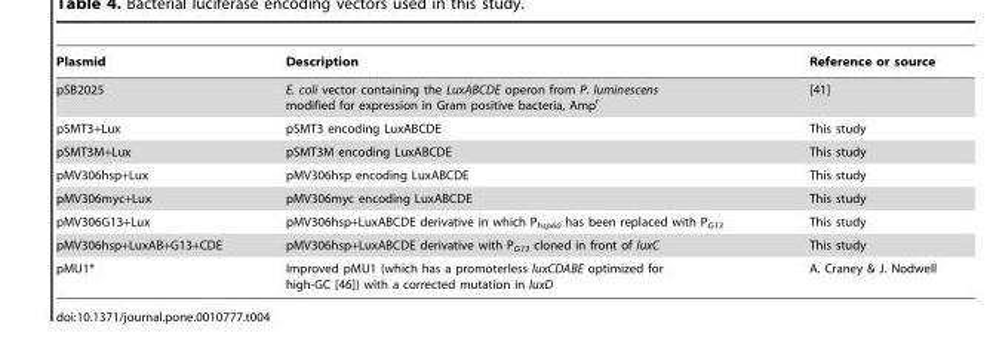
<table><thead><tr><td>Plasmid</td><td>Description</td><td>Reference or source</td></tr></thead><tbody><tr><td>pSB2025</td><td>E. coli vector containing the LuxABCDE operon from P. luminescens modified for expression in Gram positive bacteria, Amp<sup>r</sup></td><td>[41]</td></tr><tr><td>pSMT3+Lux</td><td>pSMT3 encoding LuxABCDE</td><td>This study</td></tr><tr><td>pSMT3M+Lux</td><td>pSMT3M encoding LuxABCDE</td><td>This study</td></tr><tr><td>pMV306hsp+Lux</td><td>pMV306hsp encoding LuxABCDE</td><td>This study</td></tr><tr><td>pMV306myc+Lux</td><td>pMV306myc encoding LuxABCDE</td><td>This study</td></tr><tr><td>pMV306G13+Lux</td><td>pMV306hsp+LuxABCDE derivative in which P<sub>hsp60</sub> has been replaced with P<sub>G13</sub></td><td>This study</td></tr><tr><td>pMV306hsp+LuxAB+G13+CDE</td><td>pMV306hsp+LuxABCDE derivative with P<sub>G13</sub> cloned in front of luxC</td><td>This study</td></tr><tr><td>pMU1*</td><td>Improved pMU1 (which has a promoterless luxCDABE optimized for high-GC [46]) with a corrected mutation in luxD</td><td>A. Craney &amp; J. Nodwell</td></tr></tbody></table>